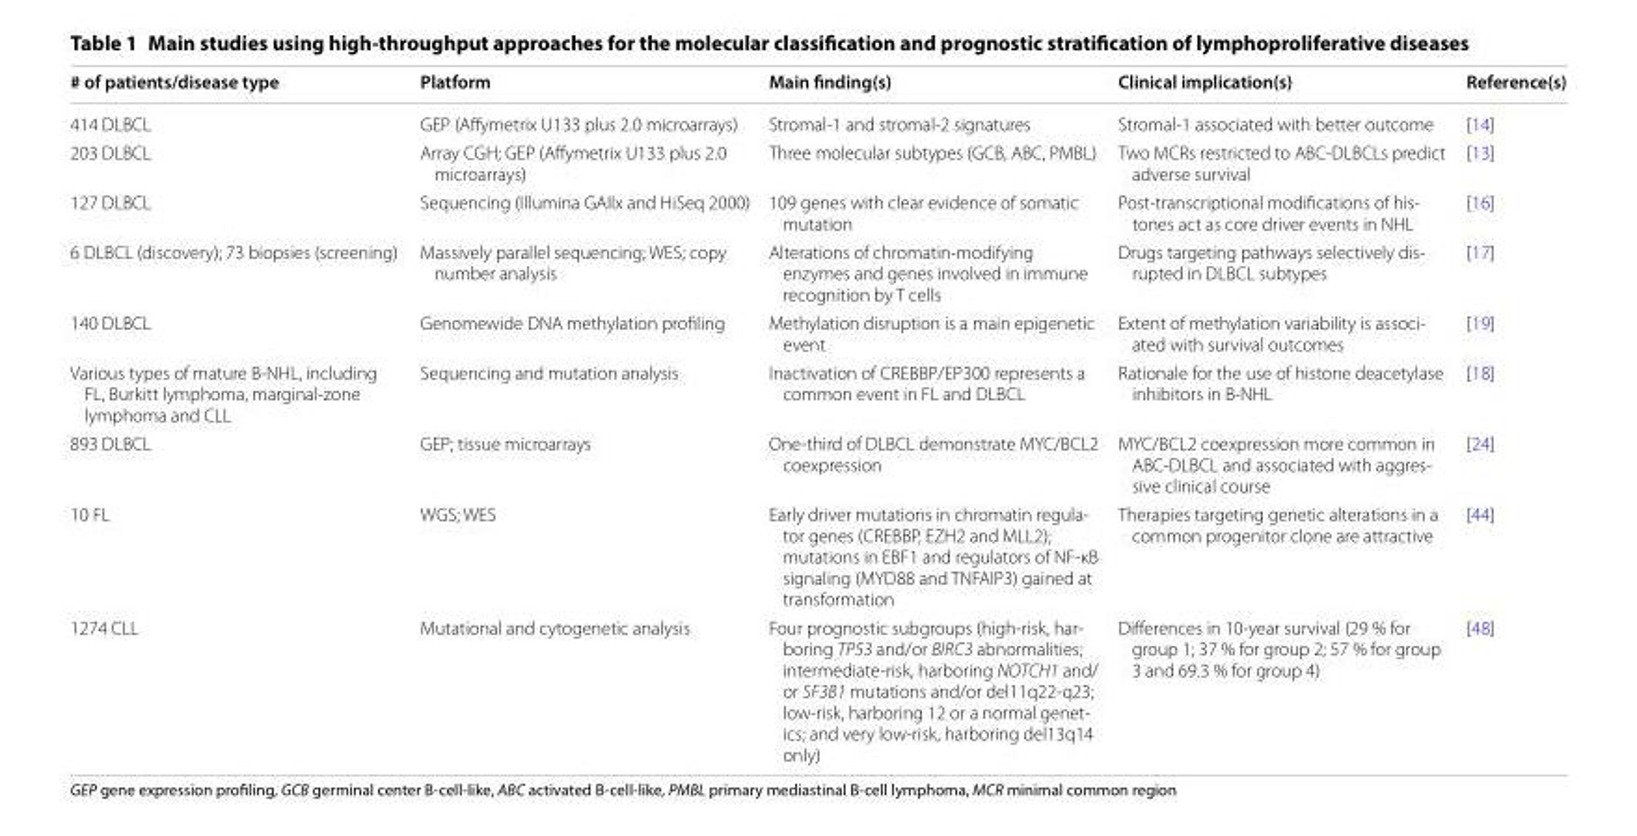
<table><thead><tr><td># of patients/disease type</td><td>Platform</td><td>Main finding(s)</td><td>Clinical implication(s)</td><td>Reference(s)</td></tr></thead><tbody><tr><td>414 DLBCL</td><td>GEP (Affymetrix U133 plus 2.0 microarrays)</td><td>Stromal-1 and stromal-2 signatures</td><td>Stromal-1 associated with better outcome</td><td>[14]</td></tr><tr><td>203 DLBCL</td><td>Array CGH; GEP (Affymetrix U133 plus 2.0 microarrays)</td><td>Three molecular subtypes (GCB, ABC, PMBL)</td><td>Two MCRs restricted to ABC-DLBCLs predict adverse survival</td><td>[13]</td></tr><tr><td>127 DLBCL</td><td>Sequencing (Illumina GAIIx and HiSeq 2000)</td><td>109 genes with clear evidence of somatic mutation</td><td>Post-transcriptional modifications of his- tones act as core driver events in NHL</td><td>[16]</td></tr><tr><td>6 DLBCL (discovery); 73 biopsies (screening)</td><td>Massively parallel sequencing; WES; copy number analysis</td><td>Alterations of chromatin-modifying enzymes and genes involved in immune recognition by T cells</td><td>Drugs targeting pathways selectively dis- rupted in DLBCL subtypes</td><td>[17]</td></tr><tr><td>140 DLBCL</td><td>Genomewide DNA methylation profiling</td><td>Methylation disruption is a main epigenetic event</td><td>Extent of methylation variability is associ- ated with survival outcomes</td><td>[19]</td></tr><tr><td>Various types of mature B-NHL, including FL, Burkitt lymphoma, marginal-zone lymphoma and CLL</td><td>Sequencing and mutation analysis</td><td>Inactivation of CREBBP/EP300 represents a common event in FL and DLBCL</td><td>Rationale for the use of histone deacetylase inhibitors in B-NHL</td><td>[18]</td></tr><tr><td>893 DLBCL</td><td>GEP; tissue microarrays</td><td>One-third of DLBCL demonstrate MYC/BCL2 coexpression</td><td>MYC/BCL2 coexpression more common in ABC-DLBCL and associated with aggres- sive clinical course</td><td>[24]</td></tr><tr><td>10 FL</td><td>WGS; WES</td><td>Early driver mutations in chromatin regula- tor genes (CREBBP, EZH2 and MLL2); mutations in EBF1 and regulators of NF-κB signaling (MYD88 and TNFAIP3) gained at transformation</td><td>Therapies targeting genetic alterations in a common progenitor clone are attractive</td><td>[44]</td></tr><tr><td>1274 CLL</td><td>Mutational and cytogenetic analysis</td><td>Four prognostic subgroups (high-risk, har- boring TP53 and/or BIRC3 abnormalities; intermediate-risk, harboring NOTCH1 and/ or SF3B1 mutations and/or del11q22-q23; low-risk, harboring 12 or a normal genet- ics; and very low-risk, harboring del13q14 only)</td><td>Differences in 10-year survival (29 % for group 1; 37 % for group 2; 57 % for group 3 and 69.3 % for group 4)</td><td>[48]</td></tr></tbody></table>